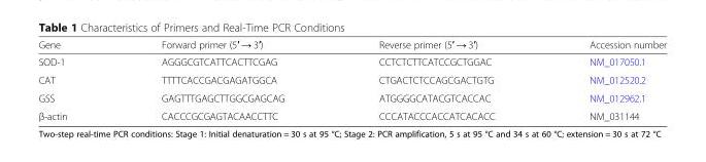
<table><thead><tr><td>Gene</td><td>Forward primer (5′ → 3′)</td><td>Reverse primer (5′ → 3′)</td><td>Accession number</td></tr></thead><tbody><tr><td>SOD-1</td><td>AGGGCGTCATTCACTTCGAG</td><td>CCTCTCTTCATCCGCTGGAC</td><td>NM_017050.1</td></tr><tr><td>CAT</td><td>TTTTCACCGACGAGATGGCA</td><td>CTGACTCTCCAGCGACTGTG</td><td>NM_012520.2</td></tr><tr><td>GSS</td><td>GAGTTTGAGCTTGGCGAGCAG</td><td>ATGGGGCATACGTCACCAC</td><td>NM_012962.1</td></tr><tr><td>β-actin</td><td>CACCCGCGAGTACAACCTTC</td><td>CCCATACCCACCATCACACC</td><td>NM_031144</td></tr></tbody></table>